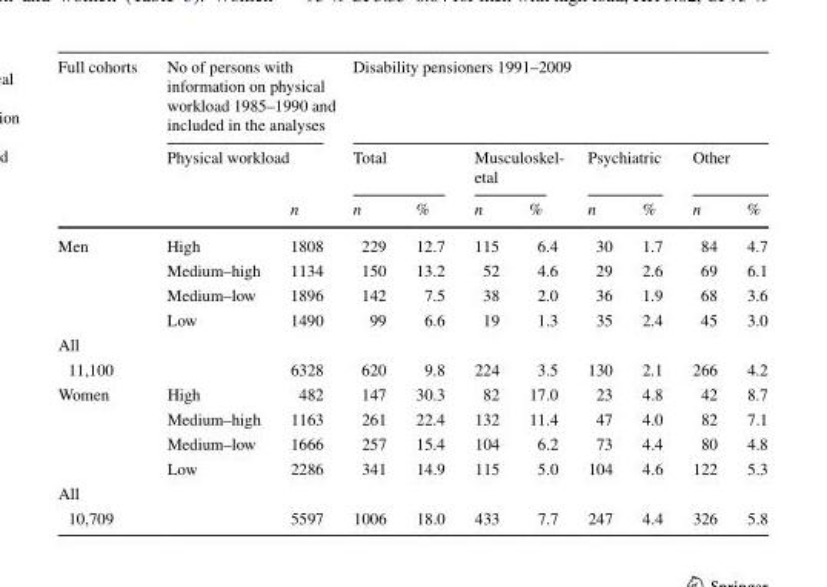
<table><thead><tr><td rowspan="3">Full cohorts</td><td rowspan="2" colspan="2">No of persons with information on physical workload 1985–1990 and included in the analyses Physical workload</td><td colspan="8">Disability pensioners 1991–2009</td></tr><tr><td colspan="2">Total</td><td colspan="2">Musculoskel- etal</td><td colspan="2">Psychiatric</td><td colspan="2">Other</td></tr><tr><td></td><td>n</td><td>n</td><td>%</td><td>n</td><td>%</td><td>n</td><td>%</td><td>n</td><td>%</td></tr></thead><tbody><tr><td rowspan="4">Men</td><td>High</td><td>1808</td><td>229</td><td>12.7</td><td>115</td><td>6.4</td><td>30</td><td>1.7</td><td>84</td><td>4.7</td></tr><tr><td>Medium–high</td><td>1134</td><td>150</td><td>13.2</td><td>52</td><td>4.6</td><td>29</td><td>2.6</td><td>69</td><td>6.1</td></tr><tr><td>Medium–low</td><td>1896</td><td>142</td><td>7.5</td><td>38</td><td>2.0</td><td>36</td><td>1.9</td><td>68</td><td>3.6</td></tr><tr><td>Low</td><td>1490</td><td>99</td><td>6.6</td><td>19</td><td>1.3</td><td>35</td><td>2.4</td><td>45</td><td>3.0</td></tr><tr><td colspan="11">All</td></tr><tr><td>11,100</td><td></td><td>6328</td><td>620</td><td>9.8</td><td>224</td><td>3.5</td><td>130</td><td>2.1</td><td>266</td><td>4.2</td></tr><tr><td rowspan="4">Women</td><td>High</td><td>482</td><td>147</td><td>30.3</td><td>82</td><td>17.0</td><td>23</td><td>4.8</td><td>42</td><td>8.7</td></tr><tr><td>Medium–high</td><td>1163</td><td>261</td><td>22.4</td><td>132</td><td>11.4</td><td>47</td><td>4.0</td><td>82</td><td>7.1</td></tr><tr><td>Medium–low</td><td>1666</td><td>257</td><td>15.4</td><td>104</td><td>6.2</td><td>73</td><td>4.4</td><td>80</td><td>4.8</td></tr><tr><td>Low</td><td>2286</td><td>341</td><td>14.9</td><td>115</td><td>5.0</td><td>104</td><td>4.6</td><td>122</td><td>5.3</td></tr><tr><td colspan="11">All</td></tr><tr><td>10,709</td><td></td><td>5597</td><td>1006</td><td>18.0</td><td>433</td><td>7.7</td><td>247</td><td>4.4</td><td>326</td><td>5.8</td></tr></tbody></table>